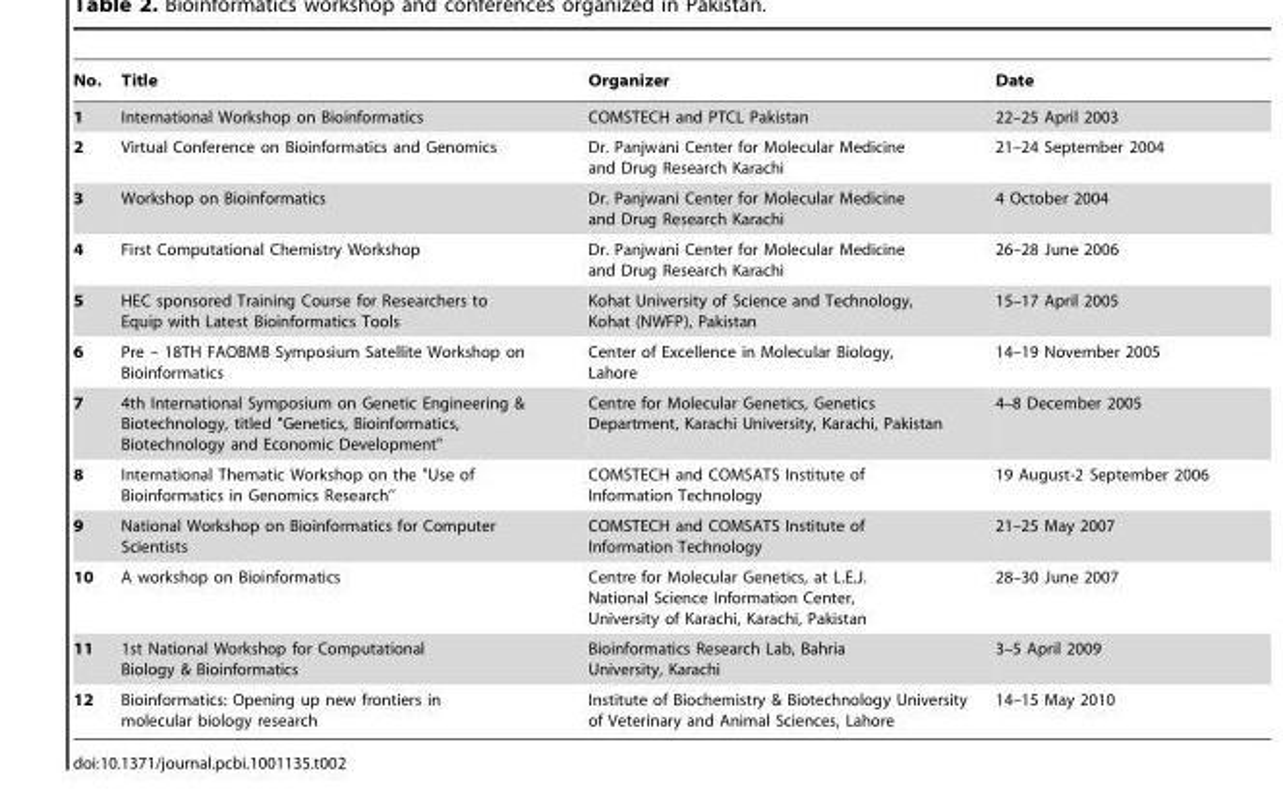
<table><thead><tr><td>No.</td><td>Title</td><td>Organizer</td><td>Date</td></tr></thead><tbody><tr><td>1</td><td>International Workshop on Bioinformatics</td><td>COMSTECH and PTCL Pakistan</td><td>22–25 April 2003</td></tr><tr><td>2</td><td>Virtual Conference on Bioinformatics and Genomics</td><td>Dr. Panjwani Center for Molecular Medicine and Drug Research Karachi</td><td>21–24 September 2004</td></tr><tr><td>3</td><td>Workshop on Bioinformatics</td><td>Dr. Panjwani Center for Molecular Medicine and Drug Research Karachi</td><td>4 October 2004</td></tr><tr><td>4</td><td>First Computational Chemistry Workshop</td><td>Dr. Panjwani Center for Molecular Medicine and Drug Research Karachi</td><td>26–28 June 2006</td></tr><tr><td>5</td><td>HEC sponsored Training Course for Researchers to Equip with Latest Bioinformatics Tools</td><td>Kohat University of Science and Technology, Kohat (NWFP), Pakistan</td><td>15–17 April 2005</td></tr><tr><td>6</td><td>Pre – 18TH FAOBMB Symposium Satellite Workshop on Bioinformatics</td><td>Center of Excellence in Molecular Biology, Lahore</td><td>14–19 November 2005</td></tr><tr><td>7</td><td>4th International Symposium on Genetic Engineering &amp; Biotechnology, titled &quot;Genetics, Bioinformatics, Biotechnology and Economic Development&quot;</td><td>Centre for Molecular Genetics, Genetics Department, Karachi University, Karachi, Pakistan</td><td>4–8 December 2005</td></tr><tr><td>8</td><td>International Thematic Workshop on the &quot;Use of Bioinformatics in Genomics Research’’</td><td>COMSTECH and COMSATS Institute of Information Technology</td><td>19 August-2 September 2006</td></tr><tr><td>9</td><td>National Workshop on Bioinformatics for Computer Scientists</td><td>COMSTECH and COMSATS Institute of Information Technology</td><td>21–25 May 2007</td></tr><tr><td>10</td><td>A workshop on Bioinformatics</td><td>Centre for Molecular Genetics, at L.E.J. National Science Information Center, University of Karachi, Karachi, Pakistan</td><td>28–30 June 2007</td></tr><tr><td>11</td><td>1st National Workshop for Computational Biology &amp; Bioinformatics</td><td>Bioinformatics Research Lab, Bahria University, Karachi</td><td>3–5 April 2009</td></tr><tr><td>12</td><td>Bioinformatics: Opening up new frontiers in molecular biology research</td><td>Institute of Biochemistry &amp; Biotechnology University of Veterinary and Animal Sciences, Lahore</td><td>14–15 May 2010</td></tr></tbody></table>